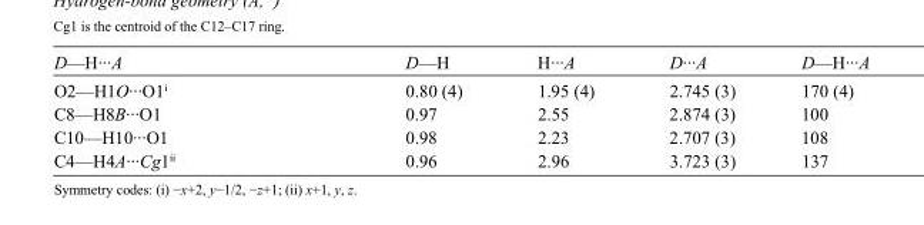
<table><tbody><tr><td>D—H···A</td><td>D—H</td><td>H···A</td><td>D···A</td><td>D—H···A</td></tr><tr><td>O2—H1O···O1<sup>i</sup></td><td>0.80 (4)</td><td>1.95 (4)</td><td>2.745 (3)</td><td>170 (4)</td></tr><tr><td>C8—H8B···O1</td><td>0.97</td><td>2.55</td><td>2.874 (3)</td><td>100</td></tr><tr><td>C10—H10···O1</td><td>0.98</td><td>2.23</td><td>2.707 (3)</td><td>108</td></tr><tr><td>C4—H4A···Cg1<sup>ii</sup></td><td>0.96</td><td>2.96</td><td>3.723 (3)</td><td>137</td></tr></tbody></table>